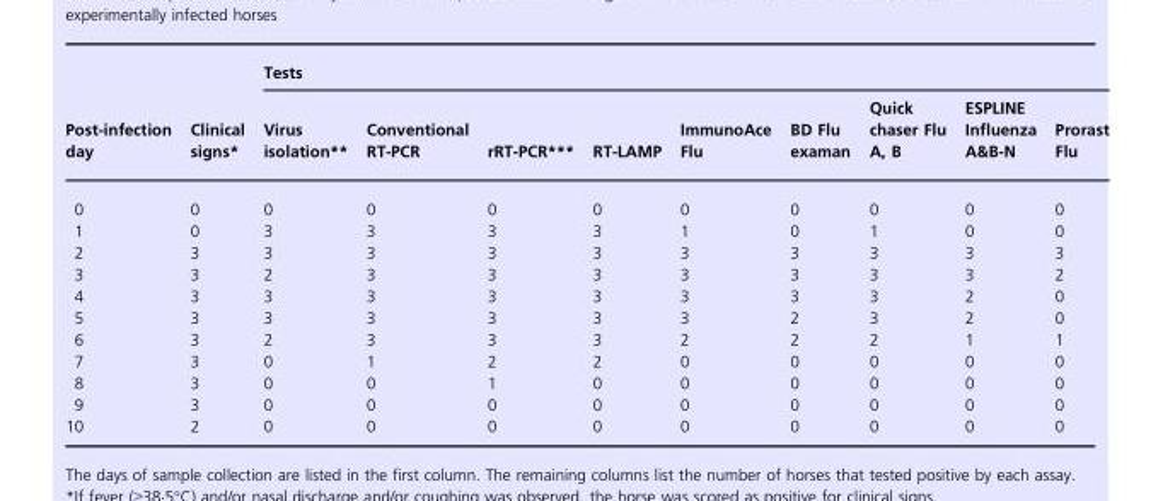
<table><thead><tr><td rowspan="2">Post-infection day</td><td rowspan="2">Clinical signs*</td><td colspan="9">Tests</td></tr><tr><td>Virus isolation**</td><td>Conventional RT-PCR</td><td>rRT-PCR***</td><td>RT-LAMP</td><td>ImmunoAce Flu</td><td>BD Flu examan</td><td>Quick chaser Flu A, B</td><td>ESPLINE Influenza A&amp;B-N</td><td>Prorast Flu</td></tr></thead><tbody><tr><td>0</td><td>0</td><td>0</td><td>0</td><td>0</td><td>0</td><td>0</td><td>0</td><td>0</td><td>0</td><td>0</td></tr><tr><td>1</td><td>0</td><td>3</td><td>3</td><td>3</td><td>3</td><td>1</td><td>0</td><td>1</td><td>0</td><td>0</td></tr><tr><td>2</td><td>3</td><td>3</td><td>3</td><td>3</td><td>3</td><td>3</td><td>3</td><td>3</td><td>3</td><td>3</td></tr><tr><td>3</td><td>3</td><td>2</td><td>3</td><td>3</td><td>3</td><td>3</td><td>3</td><td>3</td><td>3</td><td>2</td></tr><tr><td>4</td><td>3</td><td>3</td><td>3</td><td>3</td><td>3</td><td>3</td><td>3</td><td>3</td><td>2</td><td>0</td></tr><tr><td>5</td><td>3</td><td>3</td><td>3</td><td>3</td><td>3</td><td>3</td><td>2</td><td>3</td><td>2</td><td>0</td></tr><tr><td>6</td><td>3</td><td>2</td><td>3</td><td>3</td><td>3</td><td>2</td><td>2</td><td>2</td><td>1</td><td>1</td></tr><tr><td>7</td><td>3</td><td>0</td><td>1</td><td>2</td><td>2</td><td>0</td><td>0</td><td>0</td><td>0</td><td>0</td></tr><tr><td>8</td><td>3</td><td>0</td><td>0</td><td>1</td><td>0</td><td>0</td><td>0</td><td>0</td><td>0</td><td>0</td></tr><tr><td>9</td><td>3</td><td>0</td><td>0</td><td>0</td><td>0</td><td>0</td><td>0</td><td>0</td><td>0</td><td>0</td></tr><tr><td>10</td><td>2</td><td>0</td><td>0</td><td>0</td><td>0</td><td>0</td><td>0</td><td>0</td><td>0</td><td>0</td></tr></tbody></table>